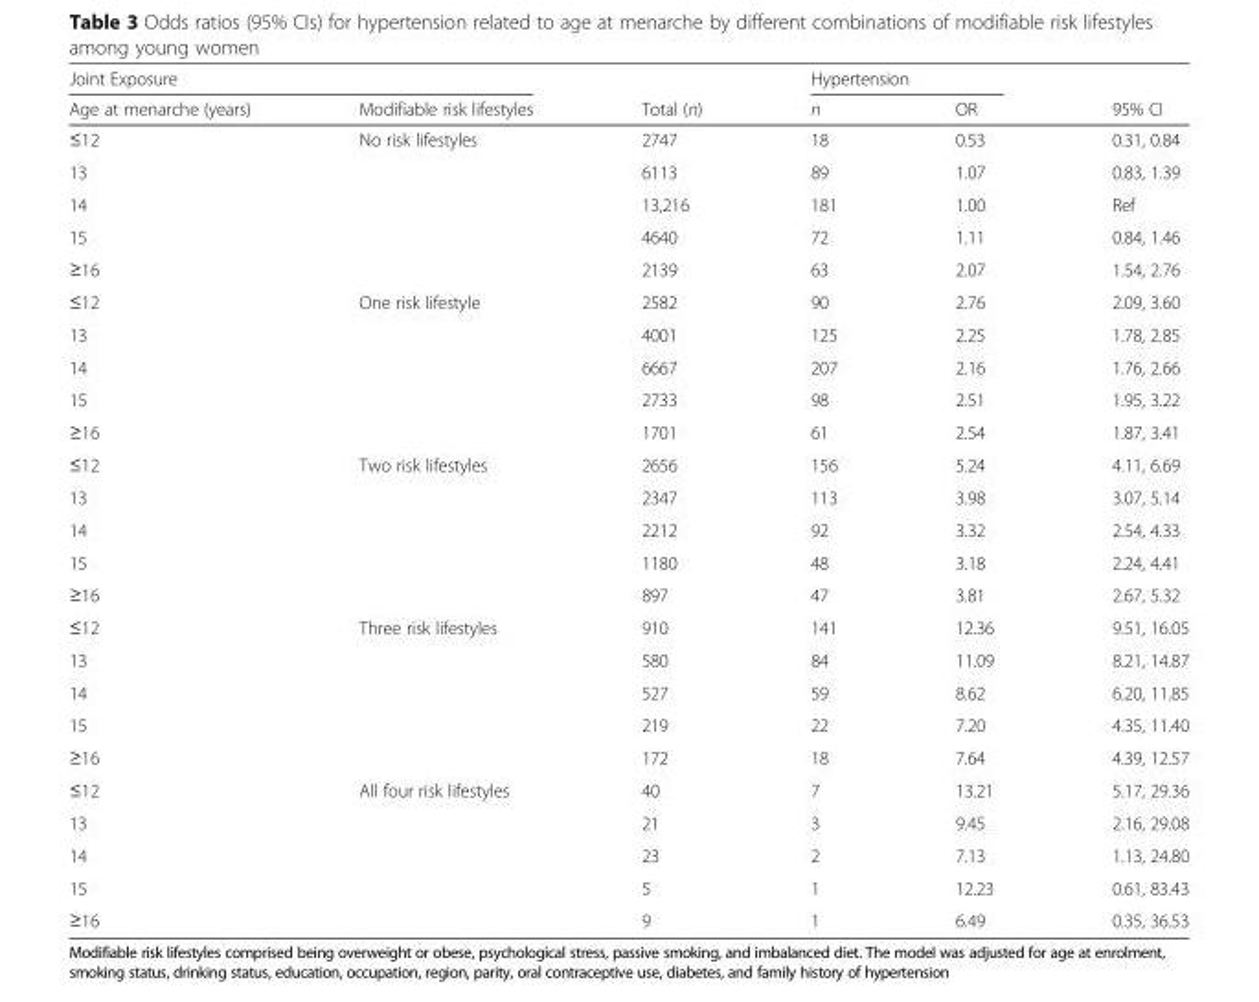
<table><thead><tr><td colspan="2">Joint Exposure</td><td rowspan="2">Total (n)</td><td colspan="2">Hypertension</td><td rowspan="2">95% CI</td></tr><tr><td>Age at menarche (years)</td><td>Modifiable risk lifestyles</td><td>n</td><td>OR</td></tr></thead><tbody><tr><td>≤12</td><td rowspan="5">No risk lifestyles</td><td>2747</td><td>18</td><td>0.53</td><td>0.31, 0.84</td></tr><tr><td>13</td><td>6113</td><td>89</td><td>1.07</td><td>0.83, 1.39</td></tr><tr><td>14</td><td>13,216</td><td>181</td><td>1.00</td><td>Ref</td></tr><tr><td>15</td><td>4640</td><td>72</td><td>1.11</td><td>0.84, 1.46</td></tr><tr><td>≥16</td><td>2139</td><td>63</td><td>2.07</td><td>1.54, 2.76</td></tr><tr><td>≤12</td><td rowspan="5">One risk lifestyle</td><td>2582</td><td>90</td><td>2.76</td><td>2.09, 3.60</td></tr><tr><td>13</td><td>4001</td><td>125</td><td>2.25</td><td>1.78, 2.85</td></tr><tr><td>14</td><td>6667</td><td>207</td><td>2.16</td><td>1.76, 2.66</td></tr><tr><td>15</td><td>2733</td><td>98</td><td>2.51</td><td>1.95, 3.22</td></tr><tr><td>≥16</td><td>1701</td><td>61</td><td>2.54</td><td>1.87, 3.41</td></tr><tr><td>≤12</td><td rowspan="5">Two risk lifestyles</td><td>2656</td><td>156</td><td>5.24</td><td>4.11, 6.69</td></tr><tr><td>13</td><td>2347</td><td>113</td><td>3.98</td><td>3.07, 5.14</td></tr><tr><td>14</td><td>2212</td><td>92</td><td>3.32</td><td>2.54, 4.33</td></tr><tr><td>15</td><td>1180</td><td>48</td><td>3.18</td><td>2.24, 4.41</td></tr><tr><td>≥16</td><td>897</td><td>47</td><td>3.81</td><td>2.67, 5.32</td></tr><tr><td>≤12</td><td rowspan="5">Three risk lifestyles</td><td>910</td><td>141</td><td>12.36</td><td>9.51, 16.05</td></tr><tr><td>13</td><td>580</td><td>84</td><td>11.09</td><td>8.21, 14.87</td></tr><tr><td>14</td><td>527</td><td>59</td><td>8.62</td><td>6.20, 11.85</td></tr><tr><td>15</td><td>219</td><td>22</td><td>7.20</td><td>4.35, 11.40</td></tr><tr><td>≥16</td><td>172</td><td>18</td><td>7.64</td><td>4.39, 12.57</td></tr><tr><td>≤12</td><td rowspan="5">All four risk lifestyles</td><td>40</td><td>7</td><td>13.21</td><td>5.17, 29.36</td></tr><tr><td>13</td><td>21</td><td>3</td><td>9.45</td><td>2.16, 29.08</td></tr><tr><td>14</td><td>23</td><td>2</td><td>7.13</td><td>1.13, 24.80</td></tr><tr><td>15</td><td>5</td><td>1</td><td>12.23</td><td>0.61, 83.43</td></tr><tr><td>≥16</td><td>9</td><td>1</td><td>6.49</td><td>0.35, 36.53</td></tr></tbody></table>